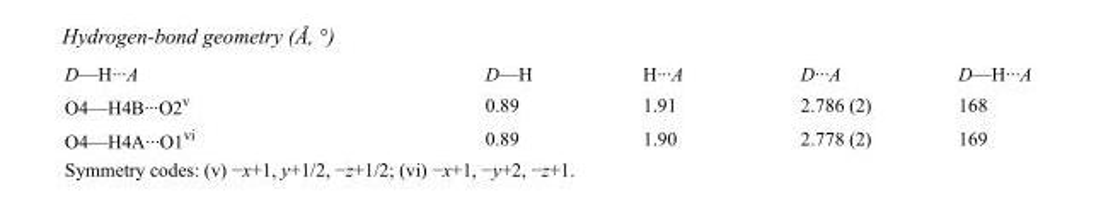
<table><tbody><tr><td>D—H···A</td><td>D—H</td><td>H···A</td><td>D···A</td><td>D—H···A</td></tr><tr><td>O4—H4B···O2<sup>v</sup></td><td>0.89</td><td>1.91</td><td>2.786 (2)</td><td>168</td></tr><tr><td>O4—H4A···O1<sup>vi</sup></td><td>0.89</td><td>1.90</td><td>2.778 (2)</td><td>169</td></tr></tbody></table>